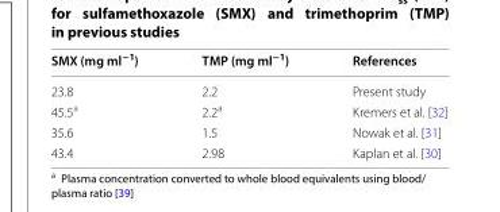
<table><thead><tr><td>SMX (mg ml<sup>−1</sup>)</td><td>TMP (mg ml<sup>−1</sup>)</td><td>References</td></tr></thead><tbody><tr><td>23.8</td><td>2.2</td><td>Present study</td></tr><tr><td>45.5<sup>a</sup></td><td>2.2<sup>a</sup></td><td>Kremers et al. [32]</td></tr><tr><td>35.6</td><td>1.5</td><td>Nowak et al. [31]</td></tr><tr><td>43.4</td><td>2.98</td><td>Kaplan et al. [30]</td></tr></tbody></table>